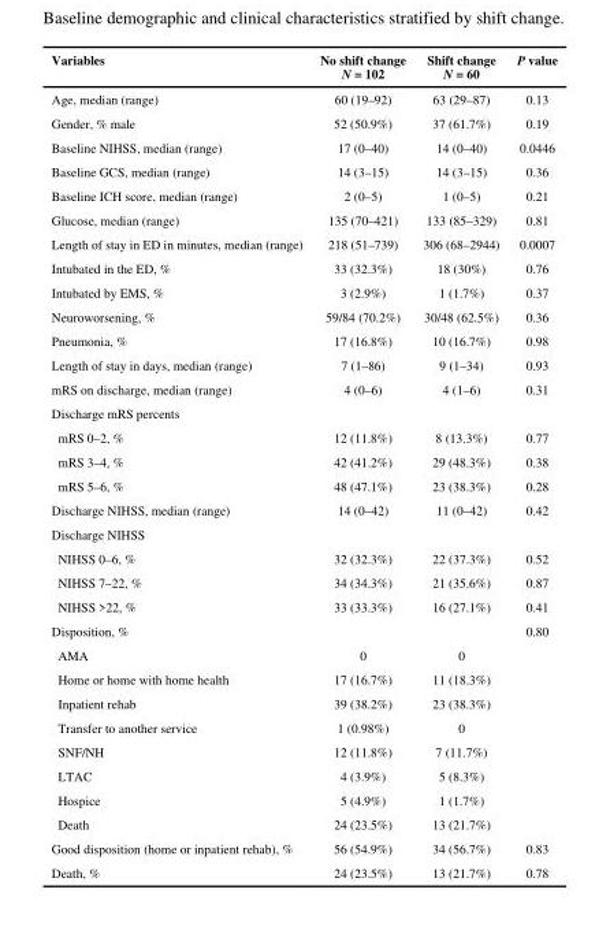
<table><thead><tr><td>Variables</td><td>No shift change N = 102</td><td>Shift change N = 60</td><td>P value</td></tr></thead><tbody><tr><td>Age, median (range)</td><td>60 (19–92)</td><td>63 (29–87)</td><td>0.13</td></tr><tr><td>Gender, % male</td><td>52 (50.9%)</td><td>37 (61.7%)</td><td>0.19</td></tr><tr><td>Baseline NIHSS, median (range)</td><td>17 (0–40)</td><td>14 (0–40)</td><td>0.0446</td></tr><tr><td>Baseline GCS, median (range)</td><td>14 (3–15)</td><td>14 (3–15)</td><td>0.36</td></tr><tr><td>Baseline ICH score, median (range)</td><td>2 (0–5)</td><td>1 (0–5)</td><td>0.21</td></tr><tr><td>Glucose, median (range)</td><td>135 (70–421)</td><td>133 (85–329)</td><td>0.81</td></tr><tr><td>Length of stay in ED in minutes, median (range)</td><td>218 (51–739)</td><td>306 (68–2944)</td><td>0.0007</td></tr><tr><td>Intubated in the ED, %</td><td>33 (32.3%)</td><td>18 (30%)</td><td>0.76</td></tr><tr><td>Intubated by EMS, %</td><td>3 (2.9%)</td><td>1 (1.7%)</td><td>0.37</td></tr><tr><td>Neuroworsening, %</td><td>59/84 (70.2%)</td><td>30/48 (62.5%)</td><td>0.36</td></tr><tr><td>Pneumonia, %</td><td>17 (16.8%)</td><td>10 (16.7%)</td><td>0.98</td></tr><tr><td>Length of stay in days, median (range)</td><td>7 (1–86)</td><td>9 (1–34)</td><td>0.93</td></tr><tr><td>mRS on discharge, median (range)</td><td>4 (0–6)</td><td>4 (1–6)</td><td>0.31</td></tr><tr><td colspan="4">Discharge mRS percents</td></tr><tr><td>mRS 0–2, %</td><td>12 (11.8%)</td><td>8 (13.3%)</td><td>0.77</td></tr><tr><td>mRS 3–4, %</td><td>42 (41.2%)</td><td>29 (48.3%)</td><td>0.38</td></tr><tr><td>mRS 5–6, %</td><td>48 (47.1%)</td><td>23 (38.3%)</td><td>0.28</td></tr><tr><td>Discharge NIHSS, median (range)</td><td>14 (0–42)</td><td>11 (0–42)</td><td>0.42</td></tr><tr><td colspan="4">Discharge NIHSS</td></tr><tr><td>NIHSS 0–6, %</td><td>32 (32.3%)</td><td>22 (37.3%)</td><td>0.52</td></tr><tr><td>NIHSS 7–22, %</td><td>34 (34.3%)</td><td>21 (35.6%)</td><td>0.87</td></tr><tr><td>NIHSS &gt;22, %</td><td>33 (33.3%)</td><td>16 (27.1%)</td><td>0.41</td></tr><tr><td>Disposition, %</td><td></td><td></td><td>0.80</td></tr><tr><td>AMA</td><td>0</td><td>0</td><td></td></tr><tr><td>Home or home with home health</td><td>17 (16.7%)</td><td>11 (18.3%)</td><td></td></tr><tr><td>Inpatient rehab</td><td>39 (38.2%)</td><td>23 (38.3%)</td><td></td></tr><tr><td>Transfer to another service</td><td>1 (0.98%)</td><td>0</td><td></td></tr><tr><td>SNF/NH</td><td>12 (11.8%)</td><td>7 (11.7%)</td><td></td></tr><tr><td>LTAC</td><td>4 (3.9%)</td><td>5 (8.3%)</td><td></td></tr><tr><td>Hospice</td><td>5 (4.9%)</td><td>1 (1.7%)</td><td></td></tr><tr><td>Death</td><td>24 (23.5%)</td><td>13 (21.7%)</td><td></td></tr><tr><td>Good disposition (home or inpatient rehab), %</td><td>56 (54.9%)</td><td>34 (56.7%)</td><td>0.83</td></tr><tr><td>Death, %</td><td>24 (23.5%)</td><td>13 (21.7%)</td><td>0.78</td></tr></tbody></table>